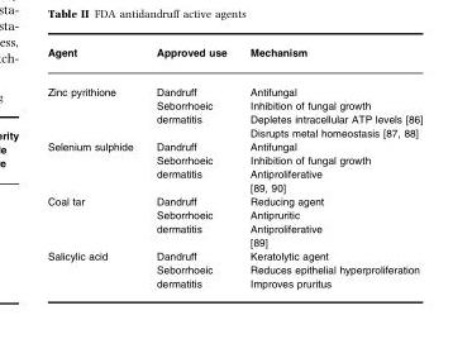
<table><thead><tr><td>Agent</td><td>Approved use</td><td>Mechanism</td></tr></thead><tbody><tr><td>Zinc pyrithione</td><td>Dandruff Seborrhoeic dermatitis</td><td>Antifungal Inhibition of fungal growth Depletes intracellular ATP levels [86] Disrupts metal homeostasis [87, 88]</td></tr><tr><td>Selenium sulphide</td><td>Dandruff Seborrhoeic dermatitis</td><td>Antifungal Inhibition of fungal growth Antiproliferative [89, 90]</td></tr><tr><td>Coal tar</td><td>Dandruff Seborrhoeic dermatitis</td><td>Reducing agent Antipruritic Antiproliferative [89]</td></tr><tr><td>Salicylic acid</td><td>Dandruff Seborrhoeic dermatitis</td><td>Keratolytic agent Reduces epithelial hyperproliferation Improves pruritus</td></tr></tbody></table>